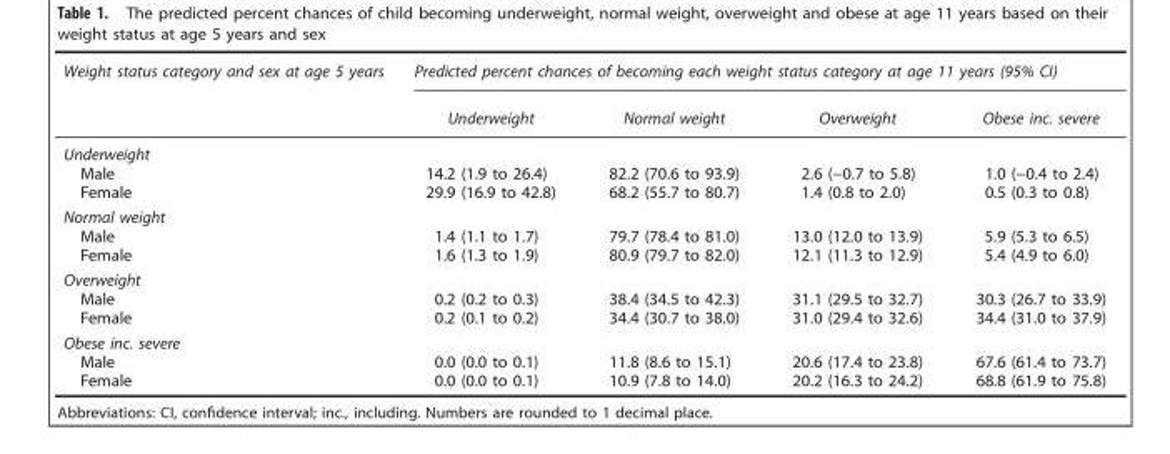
<table><thead><tr><td rowspan="2">Weight status category and sex at age 5 years</td><td colspan="4">Predicted percent chances of becoming each weight status category at age 11 years (95% CI)</td></tr><tr><td>Underweight</td><td>Normal weight</td><td>Overweight</td><td>Obese inc. severe</td></tr></thead><tbody><tr><td colspan="5">Underweight</td></tr><tr><td>Male</td><td>14.2 (1.9 to 26.4)</td><td>82.2 (70.6 to 93.9)</td><td>2.6 (−0.7 to 5.8)</td><td>1.0 (−0.4 to 2.4)</td></tr><tr><td>Female</td><td>29.9 (16.9 to 42.8)</td><td>68.2 (55.7 to 80.7)</td><td>1.4 (0.8 to 2.0)</td><td>0.5 (0.3 to 0.8)</td></tr><tr><td colspan="5">Normal weight</td></tr><tr><td>Male</td><td>1.4 (1.1 to 1.7)</td><td>79.7 (78.4 to 81.0)</td><td>13.0 (12.0 to 13.9)</td><td>5.9 (5.3 to 6.5)</td></tr><tr><td>Female</td><td>1.6 (1.3 to 1.9)</td><td>80.9 (79.7 to 82.0)</td><td>12.1 (11.3 to 12.9)</td><td>5.4 (4.9 to 6.0)</td></tr><tr><td colspan="5">Overweight</td></tr><tr><td>Male</td><td>0.2 (0.2 to 0.3)</td><td>38.4 (34.5 to 42.3)</td><td>31.1 (29.5 to 32.7)</td><td>30.3 (26.7 to 33.9)</td></tr><tr><td>Female</td><td>0.2 (0.1 to 0.2)</td><td>34.4 (30.7 to 38.0)</td><td>31.0 (29.4 to 32.6)</td><td>34.4 (31.0 to 37.9)</td></tr><tr><td colspan="5">Obese inc. severe</td></tr><tr><td>Male</td><td>0.0 (0.0 to 0.1)</td><td>11.8 (8.6 to 15.1)</td><td>20.6 (17.4 to 23.8)</td><td>67.6 (61.4 to 73.7)</td></tr><tr><td>Female</td><td>0.0 (0.0 to 0.1)</td><td>10.9 (7.8 to 14.0)</td><td>20.2 (16.3 to 24.2)</td><td>68.8 (61.9 to 75.8)</td></tr></tbody></table>